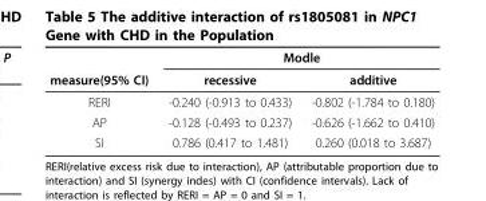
<table><thead><tr><td rowspan="2">measure(95% CI)</td><td colspan="2">Modle</td></tr><tr><td>recessive</td><td>additive</td></tr></thead><tbody><tr><td>RERI</td><td>-0.240 (-0.913 to 0.433)</td><td>-0.802 (-1.784 to 0.180)</td></tr><tr><td>AP</td><td>-0.128 (-0.493 to 0.237)</td><td>-0.626 (-1.662 to 0.410)</td></tr><tr><td>SI</td><td>0.786 (0.417 to 1.481)</td><td>0.260 (0.018 to 3.687)</td></tr></tbody></table>